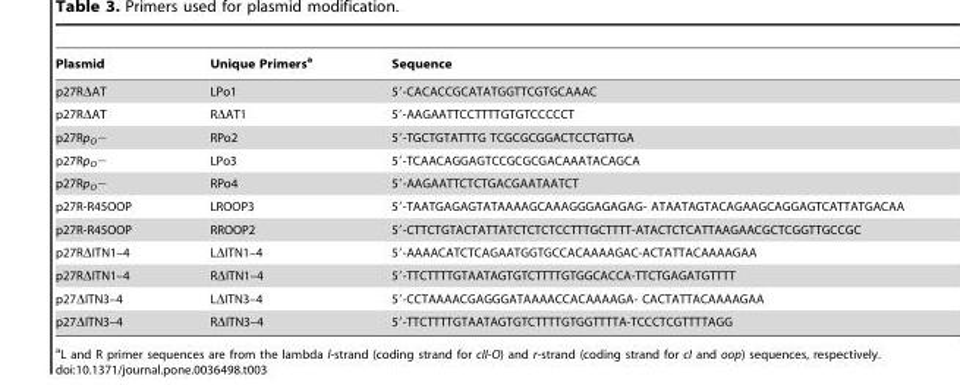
<table><thead><tr><td>Plasmid</td><td>Unique Primers<sup>a</sup></td><td>Sequence</td></tr></thead><tbody><tr><td>p27RΔAT</td><td>LPo1</td><td>5′-CACACCGCATATGGTTCGTGCAAAC</td></tr><tr><td>p27RΔAT</td><td>RΔAT1</td><td>5′-AAGAATTCCTTTTGTGTCCCCCT</td></tr><tr><td>p27Rp<sub>O</sub>−</td><td>RPo2</td><td>5′-TGCTGTATTTG TCGCGCGGACTCCTGTTGA</td></tr><tr><td>p27Rp<sub>O</sub>−</td><td>LPo3</td><td>5′-TCAACAGGAGTCCGCGCGACAAATACAGCA</td></tr><tr><td>p27Rp<sub>O</sub>−</td><td>RPo4</td><td>5′-AAGAATTCTCTGACGAATAATCT</td></tr><tr><td>p27R-R45OOP</td><td>LROOP3</td><td>5′-TAATGAGAGTATAAAAGCAAAGGGAGAGAG- ATAATAGTACAGAAGCAGGAGTCATTATGACAA</td></tr><tr><td>p27R-R45OOP</td><td>RROOP2</td><td>5′-CTTCTGTACTATTATCTCTCTCCTTTGCTTTT-ATACTCTCATTAAGAACGCTCGGTTGCCGC</td></tr><tr><td>p27RΔITN1–4</td><td>LΔITN1–4</td><td>5′-AAAACATCTCAGAATGGTGCCACAAAAGAC-ACTATTACAAAAGAA</td></tr><tr><td>p27RΔITN1–4</td><td>RΔITN1–4</td><td>5′-TTCTTTTGTAATAGTGTCTTTTGTGGCACCA-TTCTGAGATGTTTT</td></tr><tr><td>p27ΔITN3–4</td><td>LΔITN3–4</td><td>5′-CCTAAAACGAGGGATAAAACCACAAAAGA- CACTATTACAAAAGAA</td></tr><tr><td>p27ΔITN3–4</td><td>RΔITN3–4</td><td>5′-TTCTTTTGTAATAGTGTCTTTTGTGGTTTTA-TCCCTCGTTTTAGG</td></tr></tbody></table>